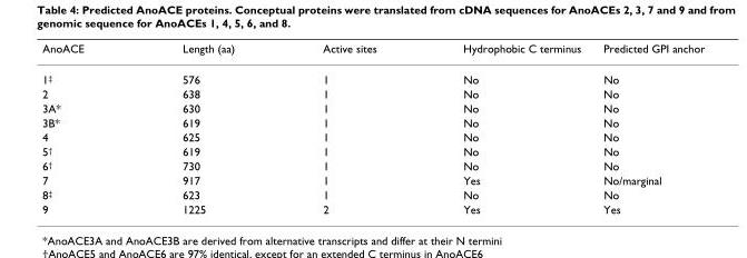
<table><thead><tr><td>AnoACE</td><td>Length (aa)</td><td>Active sites</td><td>Hydrophobic C terminus</td><td>Predicted GPI anchor</td></tr></thead><tbody><tr><td>1<sup>‡</sup></td><td>576</td><td>1</td><td>No</td><td>No</td></tr><tr><td>2</td><td>638</td><td>1</td><td>No</td><td>No</td></tr><tr><td>3A*</td><td>630</td><td>1</td><td>No</td><td>No</td></tr><tr><td>3B*</td><td>619</td><td>1</td><td>No</td><td>No</td></tr><tr><td>4</td><td>625</td><td>1</td><td>No</td><td>No</td></tr><tr><td>5<sup>†</sup></td><td>619</td><td>1</td><td>No</td><td>No</td></tr><tr><td>6<sup>†</sup></td><td>730</td><td>1</td><td>No</td><td>No</td></tr><tr><td>7</td><td>917</td><td>1</td><td>Yes</td><td>No/marginal</td></tr><tr><td>8<sup>‡</sup></td><td>623</td><td>1</td><td>No</td><td>No</td></tr><tr><td>9</td><td>1225</td><td>2</td><td>Yes</td><td>Yes</td></tr></tbody></table>